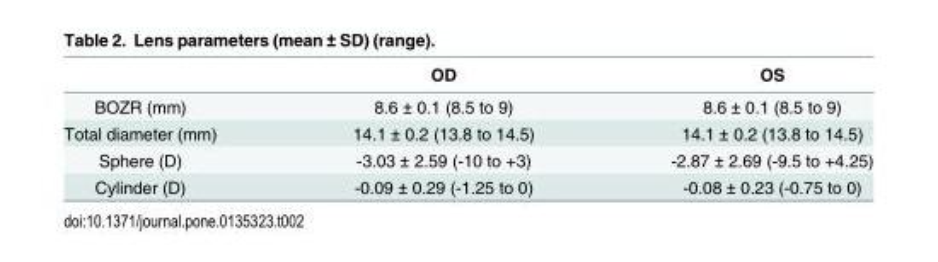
<table><thead><tr><td></td><td>OD</td><td>OS</td></tr></thead><tbody><tr><td>BOZR (mm)</td><td>8.6 ± 0.1 (8.5 to 9)</td><td>8.6 ± 0.1 (8.5 to 9)</td></tr><tr><td>Total diameter (mm)</td><td>14.1 ± 0.2 (13.8 to 14.5)</td><td>14.1 ± 0.2 (13.8 to 14.5)</td></tr><tr><td>Sphere (D)</td><td>-3.03 ± 2.59 (-10 to +3)</td><td>-2.87 ± 2.69 (-9.5 to +4.25)</td></tr><tr><td>Cylinder (D)</td><td>-0.09 ± 0.29 (-1.25 to 0)</td><td>-0.08 ± 0.23 (-0.75 to 0)</td></tr></tbody></table>